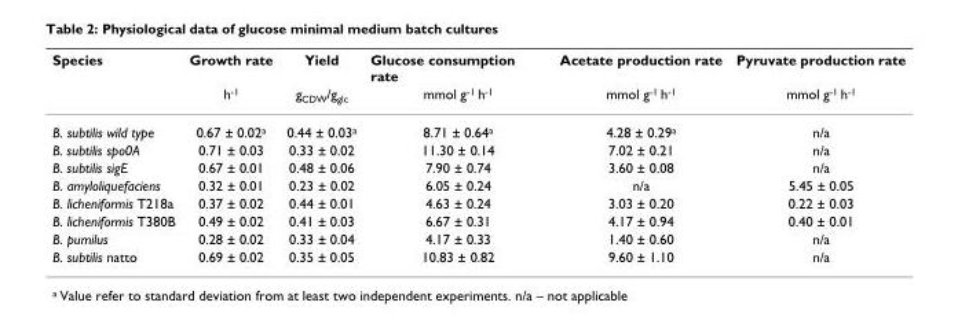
<table><thead><tr><td rowspan="2">Species</td><td rowspan="2">Growth rate h<sup>-1</sup></td><td rowspan="2">Yield g<sub>CDW</sub>/g<sub>glc</sub></td><td rowspan="2">Glucose consumption rate mmol g<sup>-1</sup> h<sup>-1</sup></td><td rowspan="2">Acetate production rate mmol g<sup>-1</sup> h<sup>-1</sup></td><td rowspan="2">Pyruvate production rate mmol g<sup>-1</sup> h<sup>-1</sup></td></tr><tr></tr></thead><tbody><tr><td>B. subtilis wild type</td><td>0.67 ± 0.02<sup>a</sup></td><td>0.44 ± 0.03<sup>a</sup></td><td>8.71 ± 0.64<sup>a</sup></td><td>4.28 ± 0.29<sup>a</sup></td><td>n/a</td></tr><tr><td>B. subtilis spo0A</td><td>0.71 ± 0.03</td><td>0.33 ± 0.02</td><td>11.30 ± 0.14</td><td>7.02 ± 0.21</td><td>n/a</td></tr><tr><td>B. subtilis sigE</td><td>0.67 ± 0.01</td><td>0.48 ± 0.06</td><td>7.90 ± 0.74</td><td>3.60 ± 0.08</td><td>n/a</td></tr><tr><td>B. amyloliquefaciens</td><td>0.32 ± 0.01</td><td>0.23 ± 0.02</td><td>6.05 ± 0.24</td><td>n/a</td><td>5.45 ± 0.05</td></tr><tr><td>B. licheniformis T218a</td><td>0.37 ± 0.02</td><td>0.44 ± 0.01</td><td>4.63 ± 0.24</td><td>3.03 ± 0.20</td><td>0.22 ± 0.03</td></tr><tr><td>B. licheniformis T380B</td><td>0.49 ± 0.02</td><td>0.41 ± 0.03</td><td>6.67 ± 0.31</td><td>4.17 ± 0.94</td><td>0.40 ± 0.01</td></tr><tr><td>B. pumilus</td><td>0.28 ± 0.02</td><td>0.33 ± 0.04</td><td>4.17 ± 0.33</td><td>1.40 ± 0.60</td><td>n/a</td></tr><tr><td>B. subtilis natto</td><td>0.69 ± 0.02</td><td>0.35 ± 0.05</td><td>10.83 ± 0.82</td><td>9.60 ± 1.10</td><td>n/a</td></tr></tbody></table>